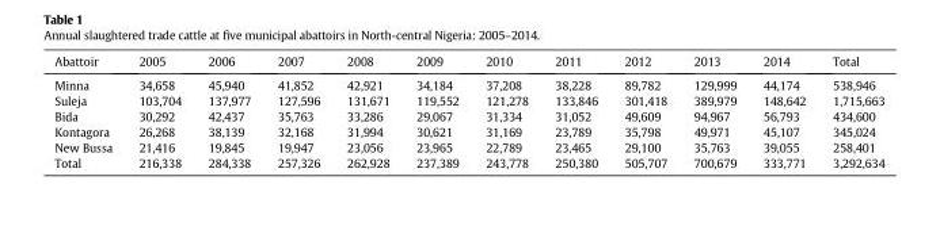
<table><thead><tr><td>Abattoir</td><td>2005</td><td>2006</td><td>2007</td><td>2008</td><td>2009</td><td>2010</td><td>2011</td><td>2012</td><td>2013</td><td>2014</td><td>Total</td></tr></thead><tbody><tr><td>Minna</td><td>34,658</td><td>45,940</td><td>41,852</td><td>42,921</td><td>34,184</td><td>37,208</td><td>38,228</td><td>89,782</td><td>129,999</td><td>44,174</td><td>538,946</td></tr><tr><td>Suleja</td><td>103,704</td><td>137,977</td><td>127,596</td><td>131,671</td><td>119,552</td><td>121,278</td><td>133,846</td><td>301,418</td><td>389,979</td><td>148,642</td><td>1,715,663</td></tr><tr><td>Bida</td><td>30,292</td><td>42,437</td><td>35,763</td><td>33,286</td><td>29,067</td><td>31,334</td><td>31,052</td><td>49,609</td><td>94,967</td><td>56,793</td><td>434,600</td></tr><tr><td>Kontagora</td><td>26,268</td><td>38,139</td><td>32,168</td><td>31,994</td><td>30,621</td><td>31,169</td><td>23,789</td><td>35,798</td><td>49,971</td><td>45,107</td><td>345,024</td></tr><tr><td>New Bussa</td><td>21,416</td><td>19,845</td><td>19,947</td><td>23,056</td><td>23,965</td><td>22,789</td><td>23,465</td><td>29,100</td><td>35,763</td><td>39,055</td><td>258,401</td></tr><tr><td>Total</td><td>216,338</td><td>284,338</td><td>257,326</td><td>262,928</td><td>237,389</td><td>243,778</td><td>250,380</td><td>505,707</td><td>700,679</td><td>333,771</td><td>3,292,634</td></tr></tbody></table>